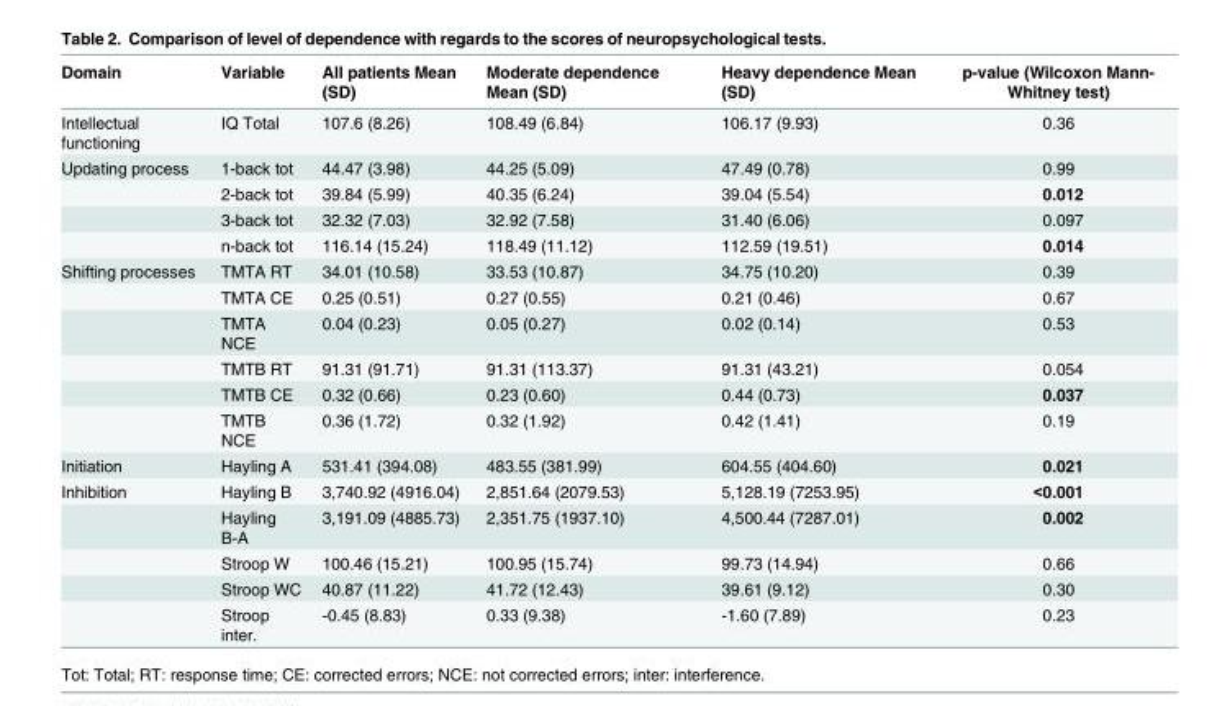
<table><thead><tr><td>Domain</td><td>Variable</td><td>All patients Mean (SD)</td><td>Moderate dependence Mean (SD)</td><td>Heavy dependence Mean (SD)</td><td>p-value (Wilcoxon Mann- Whitney test)</td></tr></thead><tbody><tr><td>Intellectual functioning</td><td>IQ Total</td><td>107.6 (8.26)</td><td>108.49 (6.84)</td><td>106.17 (9.93)</td><td>0.36</td></tr><tr><td rowspan="4">Updating process</td><td>1-back tot</td><td>44.47 (3.98)</td><td>44.25 (5.09)</td><td>47.49 (0.78)</td><td>0.99</td></tr><tr><td>2-back tot</td><td>39.84 (5.99)</td><td>40.35 (6.24)</td><td>39.04 (5.54)</td><td>0.012</td></tr><tr><td>3-back tot</td><td>32.32 (7.03)</td><td>32.92 (7.58)</td><td>31.40 (6.06)</td><td>0.097</td></tr><tr><td>n-back tot</td><td>116.14 (15.24)</td><td>118.49 (11.12)</td><td>112.59 (19.51)</td><td>0.014</td></tr><tr><td rowspan="6">Shifting processes</td><td>TMTA RT</td><td>34.01 (10.58)</td><td>33.53 (10.87)</td><td>34.75 (10.20)</td><td>0.39</td></tr><tr><td>TMTA CE</td><td>0.25 (0.51)</td><td>0.27 (0.55)</td><td>0.21 (0.46)</td><td>0.67</td></tr><tr><td>TMTA NCE</td><td>0.04 (0.23)</td><td>0.05 (0.27)</td><td>0.02 (0.14)</td><td>0.53</td></tr><tr><td>TMTB RT</td><td>91.31 (91.71)</td><td>91.31 (113.37)</td><td>91.31 (43.21)</td><td>0.054</td></tr><tr><td>TMTB CE</td><td>0.32 (0.66)</td><td>0.23 (0.60)</td><td>0.44 (0.73)</td><td>0.037</td></tr><tr><td>TMTB NCE</td><td>0.36 (1.72)</td><td>0.32 (1.92)</td><td>0.42 (1.41)</td><td>0.19</td></tr><tr><td>Initiation</td><td>Hayling A</td><td>531.41 (394.08)</td><td>483.55 (381.99)</td><td>604.55 (404.60)</td><td>0.021</td></tr><tr><td rowspan="5">Inhibition</td><td>Hayling B</td><td>3,740.92 (4916.04)</td><td>2,851.64 (2079.53)</td><td>5,128.19 (7253.95)</td><td>&lt;0.001</td></tr><tr><td>Hayling B-A</td><td>3,191.09 (4885.73)</td><td>2,351.75 (1937.10)</td><td>4,500.44 (7287.01)</td><td>0.002</td></tr><tr><td>Stroop W</td><td>100.46 (15.21)</td><td>100.95 (15.74)</td><td>99.73 (14.94)</td><td>0.66</td></tr><tr><td>Stroop WC</td><td>40.87 (11.22)</td><td>41.72 (12.43)</td><td>39.61 (9.12)</td><td>0.30</td></tr><tr><td>Stroop inter.</td><td>-0.45 (8.83)</td><td>0.33 (9.38)</td><td>-1.60 (7.89)</td><td>0.23</td></tr></tbody></table>